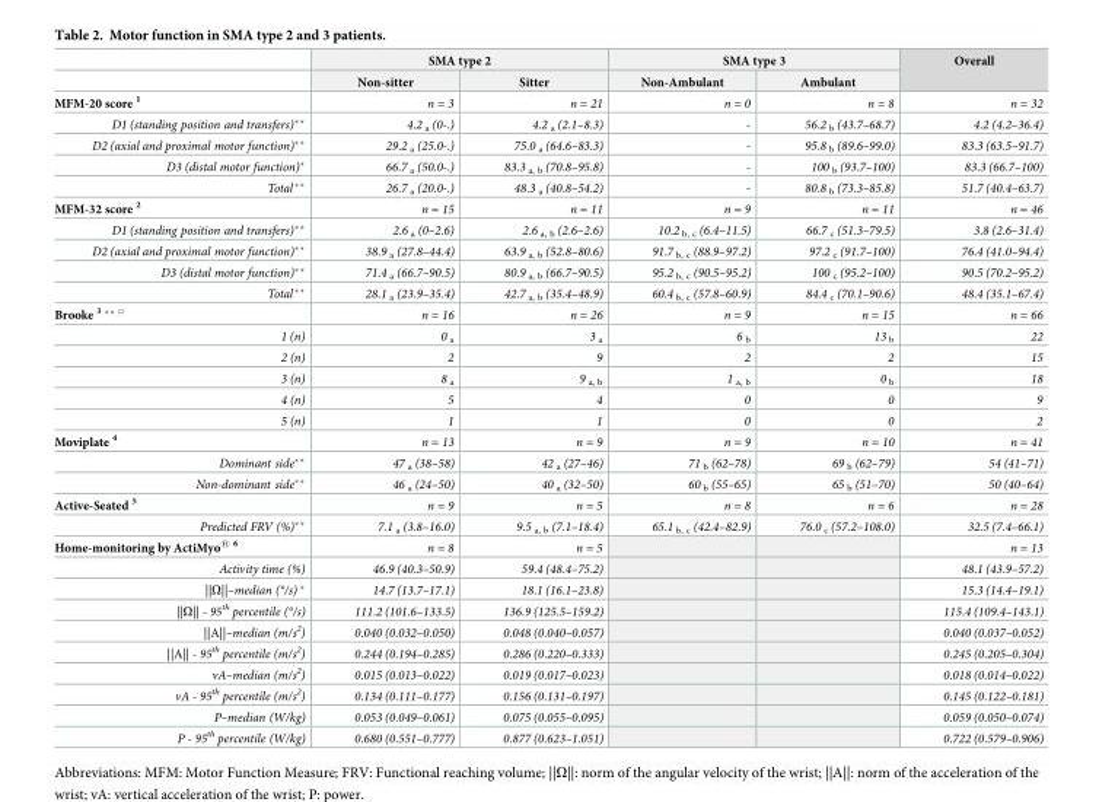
<table><thead><tr><td rowspan="2"></td><td colspan="2">SMA type 2</td><td colspan="2">SMA type 3</td><td rowspan="2">Overall</td></tr><tr><td>Non-sitter</td><td>Sitter</td><td>Non-Ambulant</td><td>Ambulant</td></tr></thead><tbody><tr><td>MFM-20 score <sup>1</sup></td><td>n = 3</td><td>n = 21</td><td>n = 0</td><td>n = 8</td><td>n = 32</td></tr><tr><td>D1 (standing position and transfers)**</td><td>4.2 <sub>a</sub> (0-.)</td><td>4.2 <sub>a</sub> (2.1–8.3)</td><td>-</td><td>56.2 <sub>b</sub> (43.7–68.7)</td><td>4.2 (4.2–36.4)</td></tr><tr><td>D2 (axial and proximal motor function)**</td><td>29.2 <sub>a</sub> (25.0-.)</td><td>75.0 <sub>a</sub> (64.6–83.3)</td><td>-</td><td>95.8 <sub>b</sub> (89.6–99.0)</td><td>83.3 (63.5–91.7)</td></tr><tr><td>D3 (distal motor function)*</td><td>66.7 <sub>a</sub> (50.0-.)</td><td>83.3 <sub>a, b</sub> (70.8–95.8)</td><td>-</td><td>100 <sub>b</sub> (93.7–100)</td><td>83.3 (66.7–100)</td></tr><tr><td>Total **</td><td>26.7 <sub>a</sub> (20.0-.)</td><td>48.3 <sub>a</sub> (40.8–54.2)</td><td>-</td><td>80.8 <sub>b</sub> (73.3–85.8)</td><td>51.7 (40.4–63.7)</td></tr><tr><td>MFM-32 score <sup>2</sup></td><td>n = 15</td><td>n = 11</td><td>n = 9</td><td>n = 11</td><td>n = 46</td></tr><tr><td>D1 (standing position and transfers)**</td><td>2.6 <sub>a</sub> (0–2.6)</td><td>2.6 <sub>a, b</sub> (2.6–2.6)</td><td>10.2 <sub>b, c</sub> (6.4–11.5)</td><td>66.7 <sub>c</sub> (51.3–79.5)</td><td>3.8 (2.6–31.4)</td></tr><tr><td>D2 (axial and proximal motor function)**</td><td>38.9 <sub>a</sub> (27.8–44.4)</td><td>63.9 <sub>a, b</sub> (52.8–80.6)</td><td>91.7 <sub>b, c</sub> (88.9–97.2)</td><td>97.2 <sub>c</sub> (91.7–100)</td><td>76.4 (41.0–94.4)</td></tr><tr><td>D3 (distal motor function)**</td><td>71.4 <sub>a</sub> (66.7–90.5)</td><td>80.9 <sub>a, b</sub> (66.7–90.5)</td><td>95.2 <sub>b, c</sub> (90.5–95.2)</td><td>100 <sub>c</sub> (95.2–100)</td><td>90.5 (70.2–95.2)</td></tr><tr><td>Total **</td><td>28.1 <sub>a</sub> (23.9–35.4)</td><td>42.7 <sub>a, b</sub> (35.4–48.9)</td><td>60.4 <sub>b, c</sub> (57.8–60.9)</td><td>84.4 <sub>c</sub> (70.1–90.6)</td><td>48.4 (35.1–67.4)</td></tr><tr><td>Brooke <sup>3</sup> ** <sup>□</sup></td><td>n = 16</td><td>n = 26</td><td>n = 9</td><td>n = 15</td><td>n = 66</td></tr><tr><td>1 (n)</td><td>0 <sub>a</sub></td><td>3 <sub>a</sub></td><td>6 <sub>b</sub></td><td>13 <sub>b</sub></td><td>22</td></tr><tr><td>2 (n)</td><td>2</td><td>9</td><td>2</td><td>2</td><td>15</td></tr><tr><td>3 (n)</td><td>8 <sub>a</sub></td><td>9 <sub>a, b</sub></td><td>1 <sub>a, b</sub></td><td>0 <sub>b</sub></td><td>18</td></tr><tr><td>4 (n)</td><td>5</td><td>4</td><td>0</td><td>0</td><td>9</td></tr><tr><td>5 (n)</td><td>1</td><td>1</td><td>0</td><td>0</td><td>2</td></tr><tr><td>Moviplate <sup>4</sup></td><td>n = 13</td><td>n = 9</td><td>n = 9</td><td>n = 10</td><td>n = 41</td></tr><tr><td>Dominant side**</td><td>47 <sub>a</sub> (38–58)</td><td>42 <sub>a</sub> (27–46)</td><td>71 <sub>b</sub> (62–78)</td><td>69 <sub>b</sub> (62–79)</td><td>54 (41–71)</td></tr><tr><td>Non-dominant side**</td><td>46 <sub>a</sub> (24–50)</td><td>40 <sub>a</sub> (32–50)</td><td>60 <sub>b</sub> (55–65)</td><td>65 <sub>b</sub> (51–70)</td><td>50 (40–64)</td></tr><tr><td>Active-Seated <sup>5</sup></td><td>n = 9</td><td>n = 5</td><td>n = 8</td><td>n = 6</td><td>n = 28</td></tr><tr><td>Predicted FRV (%)**</td><td>7.1 <sub>a</sub> (3.8–16.0)</td><td>9.5 <sub>a, b</sub> (7.1–18.4)</td><td>65.1 <sub>b, c</sub> (42.4–82.9)</td><td>76.0 <sub>c</sub> (57.2–108.0)</td><td>32.5 (7.4–66.1)</td></tr><tr><td>Home-monitoring by ActiMyo<sup>® 6</sup></td><td>n = 8</td><td>n = 5</td><td></td><td></td><td>n = 13</td></tr><tr><td>Activity time (%)</td><td>46.9 (40.3–50.9)</td><td>59.4 (48.4–75.2)</td><td></td><td></td><td>48.1 (43.9–57.2)</td></tr><tr><td>||Ω||–median (°/s) *</td><td>14.7 (13.7–17.1)</td><td>18.1 (16.1–23.8)</td><td></td><td></td><td>15.3 (14.4–19.1)</td></tr><tr><td>||Ω|| - 95<sup>th</sup> percentile (°/s)</td><td>111.2 (101.6–133.5)</td><td>136.9 (125.5–159.2)</td><td></td><td></td><td>115.4 (109.4–143.1)</td></tr><tr><td>||A||–median (m/s<sup>2</sup>)</td><td>0.040 (0.032–0.050)</td><td>0.048 (0.040–0.057)</td><td></td><td></td><td>0.040 (0.037–0.052)</td></tr><tr><td>||A|| - 95<sup>th</sup> percentile (m/s<sup>2</sup>)</td><td>0.244 (0.194–0.285)</td><td>0.286 (0.220–0.333)</td><td></td><td></td><td>0.245 (0.205–0.304)</td></tr><tr><td>vA–median (m/s<sup>2</sup>)</td><td>0.015 (0.013–0.022)</td><td>0.019 (0.017–0.023)</td><td></td><td></td><td>0.018 (0.014–0.022)</td></tr><tr><td>vA - 95<sup>th</sup> percentile (m/s<sup>2</sup>)</td><td>0.134 (0.111–0.177)</td><td>0.156 (0.131–0.197)</td><td></td><td></td><td>0.145 (0.122–0.181)</td></tr><tr><td>P–median (W/kg)</td><td>0.053 (0.049–0.061)</td><td>0.075 (0.055–0.095)</td><td></td><td></td><td>0.059 (0.050–0.074)</td></tr><tr><td>P - 95<sup>th</sup> percentile (W/kg)</td><td>0.680 (0.551–0.777)</td><td>0.877 (0.623–1.051)</td><td></td><td></td><td>0.722 (0.579–0.906)</td></tr></tbody></table>